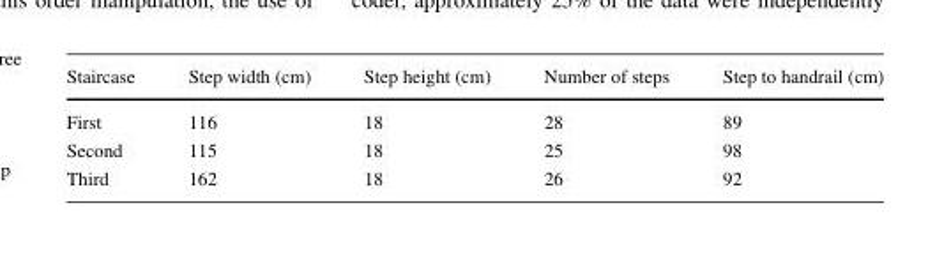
<table><thead><tr><td>Staircase</td><td>Step width (cm)</td><td>Step height (cm)</td><td>Number of steps</td><td>Step to handrail (cm)</td></tr></thead><tbody><tr><td>First</td><td>116</td><td>18</td><td>28</td><td>89</td></tr><tr><td>Second</td><td>115</td><td>18</td><td>25</td><td>98</td></tr><tr><td>Third</td><td>162</td><td>18</td><td>26</td><td>92</td></tr></tbody></table>